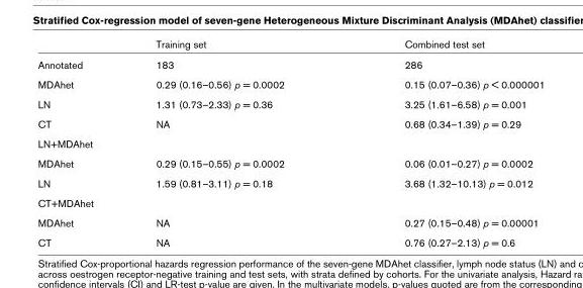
<table><thead><tr><td></td><td>Training set</td><td>Combined test set</td></tr></thead><tbody><tr><td>Annotated</td><td>183</td><td>286</td></tr><tr><td>MDAhet</td><td>0.29 (0.16–0.56) p = 0.0002</td><td>0.15 (0.07–0.36) p &lt; 0.000001</td></tr><tr><td>LN</td><td>1.31 (0.73–2.33) p = 0.36</td><td>3.25 (1.61–6.58) p = 0.001</td></tr><tr><td>CT</td><td>NA</td><td>0.68 (0.34–1.39) p = 0.29</td></tr><tr><td colspan="3">LN+MDAhet</td></tr><tr><td>MDAhet</td><td>0.29 (0.15–0.55) p = 0.0002</td><td>0.06 (0.01–0.27) p = 0.0002</td></tr><tr><td>LN</td><td>1.59 (0.81–3.11) p = 0.18</td><td>3.68 (1.32–10.13) p = 0.012</td></tr><tr><td colspan="3">CT+MDAhet</td></tr><tr><td>MDAhet</td><td>NA</td><td>0.27 (0.15–0.48) p = 0.00001</td></tr><tr><td>CT</td><td>NA</td><td>0.76 (0.27–2.13) p = 0.6</td></tr></tbody></table>